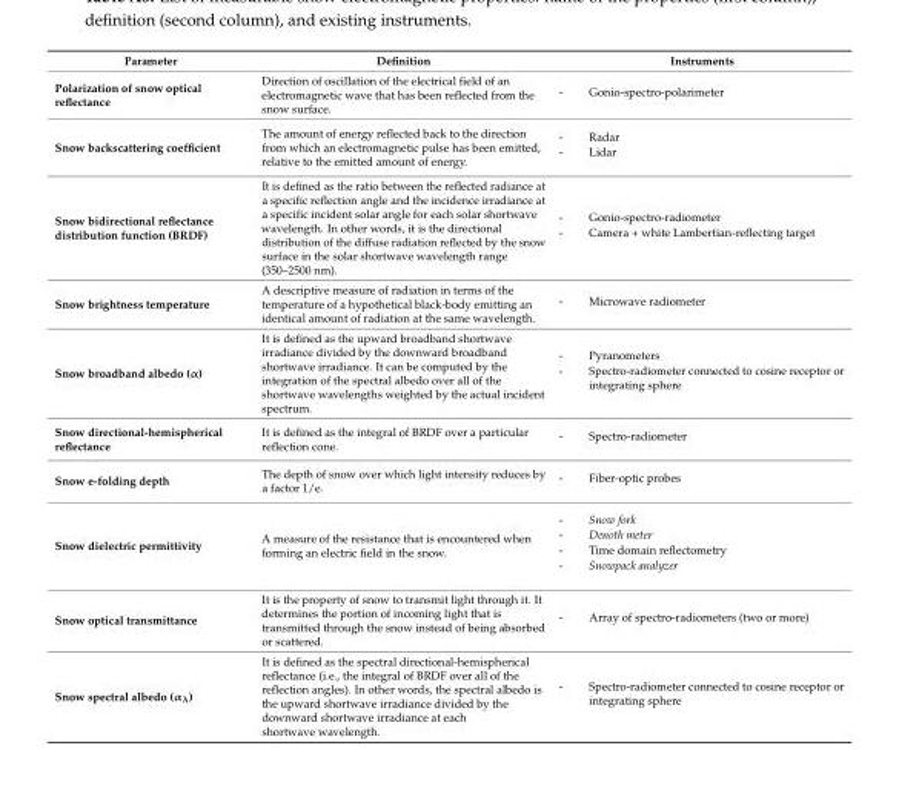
<table><thead><tr><td>Parameter</td><td>Definition</td><td>Instruments</td></tr></thead><tbody><tr><td>Polarization of snow optical reflectance</td><td>Direction of oscillation of the electrical field of an electromagnetic wave that has been reflected from the snow surface.</td><td>- Gonio-spectro-polarimeter</td></tr><tr><td>Snow backscattering coefficient</td><td>The amount of energy reflected back to the direction from which an electromagnetic pulse has been emitted, relative to the emitted amount of energy.</td><td>- Radar - Lidar</td></tr><tr><td>Snow bidirectional reflectance distribution function (BRDF)</td><td>It is defined as the ratio between the reflected radiance at a specific reflection angle and the incidence irradiance at a specific incident solar angle for each solar shortwave wavelength. In other words, it is the directional distribution of the diffuse radiation reflected by the snow surface in the solar shortwave wavelength range (350–2500 nm).</td><td>- Gonio-spectro-radiometer - Camera + white Lambertian-reflecting target</td></tr><tr><td>Snow brightness temperature</td><td>A descriptive measure of radiation in terms of the temperature of a hypothetical black-body emitting an identical amount of radiation at the same wavelength.</td><td>- Microwave radiometer</td></tr><tr><td>Snow broadband albedo (α)</td><td>It is defined as the upward broadband shortwave irradiance divided by the downward broadband shortwave irradiance. It can be computed by the integration of the spectral albedo over all of the shortwave wavelengths weighted by the actual incident spectrum.</td><td>- Pyranometers - Spectro-radiometer connected to cosine receptor or integrating sphere</td></tr><tr><td>Snow directional-hemispherical reflectance</td><td>It is defined as the integral of BRDF over a particular reflection cone.</td><td>- Spectro-radiometer</td></tr><tr><td>Snow e-folding depth</td><td>The depth of snow over which light intensity reduces by a factor 1/e.</td><td>- Fiber-optic probes</td></tr><tr><td>Snow dielectric permittivity</td><td>A measure of the resistance that is encountered when forming an electric field in the snow.</td><td>- Snow fork - Denoth meter - Time domain reflectometry - Snowpack analyzer</td></tr><tr><td>Snow optical transmittance</td><td>It is the property of snow to transmit light through it. It determines the portion of incoming light that is transmitted through the snow instead of being absorbed or scattered.</td><td>- Array of spectro-radiometers (two or more)</td></tr><tr><td>Snow spectral albedo (α<sub>λ</sub>)</td><td>It is defined as the spectral directional-hemispherical reflectance (i.e., the integral of BRDF over all of the reflection angles). In other words, the spectral albedo is the upward shortwave irradiance divided by the downward shortwave irradiance at each shortwave wavelength.</td><td>- Spectro-radiometer connected to cosine receptor or integrating sphere</td></tr></tbody></table>